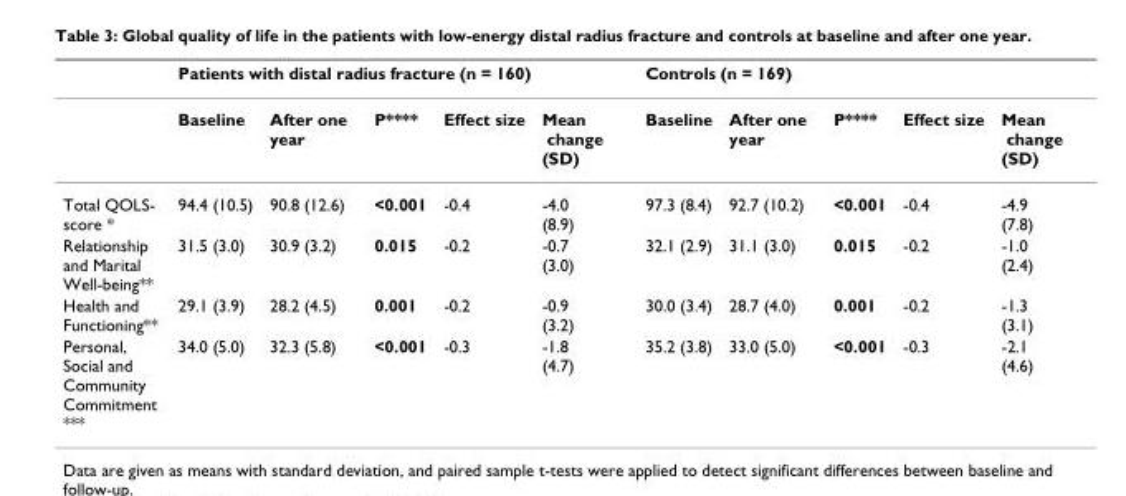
<table><thead><tr><td rowspan="2"></td><td colspan="5">Patients with distal radius fracture (n = 160)</td><td colspan="5">Controls (n = 169)</td></tr><tr><td>Baseline</td><td>After one year</td><td>P****</td><td>Effect size</td><td>Mean change (SD)</td><td>Baseline</td><td>After one year</td><td>P****</td><td>Effect size</td><td>Mean change (SD)</td></tr></thead><tbody><tr><td>Total QOLS- score *</td><td>94.4 (10.5)</td><td>90.8 (12.6)</td><td>&lt;0.001</td><td>-0.4</td><td>-4.0 (8.9)</td><td>97.3 (8.4)</td><td>92.7 (10.2)</td><td>&lt;0.001</td><td>-0.4</td><td>-4.9 (7.8)</td></tr><tr><td>Relationship and Marital Well-being**</td><td>31.5 (3.0)</td><td>30.9 (3.2)</td><td>0.015</td><td>-0.2</td><td>-0.7 (3.0)</td><td>32.1 (2.9)</td><td>31.1 (3.0)</td><td>0.015</td><td>-0.2</td><td>-1.0 (2.4)</td></tr><tr><td>Health and Functioning**</td><td>29.1 (3.9)</td><td>28.2 (4.5)</td><td>0.001</td><td>-0.2</td><td>-0.9 (3.2)</td><td>30.0 (3.4)</td><td>28.7 (4.0)</td><td>0.001</td><td>-0.2</td><td>-1.3 (3.1)</td></tr><tr><td>Personal, Social and Community Commitment ***</td><td>34.0 (5.0)</td><td>32.3 (5.8)</td><td>&lt;0.001</td><td>-0.3</td><td>-1.8 (4.7)</td><td>35.2 (3.8)</td><td>33.0 (5.0)</td><td>&lt;0.001</td><td>-0.3</td><td>-2.1 (4.6)</td></tr></tbody></table>